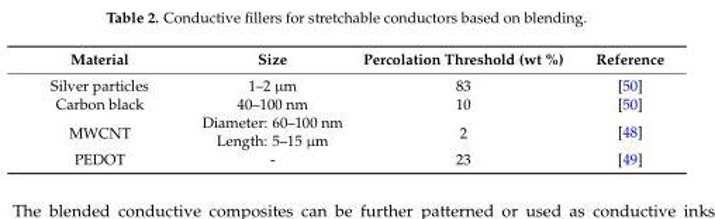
<table><thead><tr><td>Material</td><td>Size</td><td>Percolation Threshold (wt %)</td><td>Reference</td></tr></thead><tbody><tr><td>Silver particles</td><td>1–2 µm</td><td>83</td><td>[50]</td></tr><tr><td>Carbon black</td><td>40–100 nm</td><td>10</td><td>[50]</td></tr><tr><td rowspan="2">MWCNT</td><td>Diameter: 60–100 nm</td><td rowspan="2">2</td><td rowspan="2">[48]</td></tr><tr><td>Length: 5–15 µm</td></tr><tr><td>PEDOT</td><td>-</td><td>23</td><td>[49]</td></tr></tbody></table>